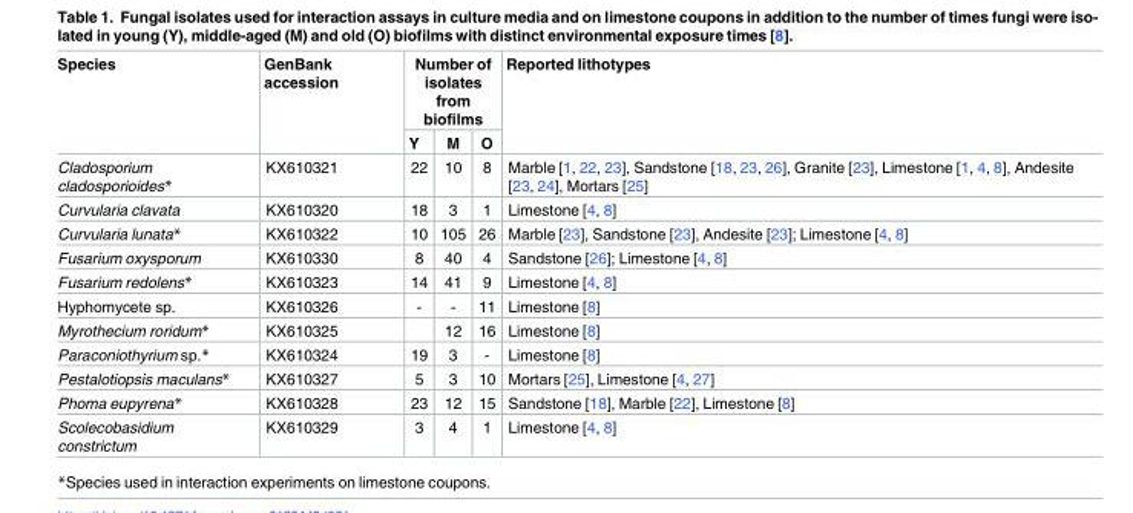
<table><thead><tr><td rowspan="2">Species</td><td rowspan="2">GenBank accession</td><td colspan="3">Number of isolates from biofilms</td><td rowspan="2">Reported lithotypes</td></tr><tr><td>Y</td><td>M</td><td>O</td></tr></thead><tbody><tr><td>Cladosporium cladosporioides*</td><td>KX610321</td><td>22</td><td>10</td><td>8</td><td>Marble [1, 22, 23], Sandstone [18, 23, 26], Granite [23], Limestone [1, 4, 8], Andesite [23, 24], Mortars [25]</td></tr><tr><td>Curvularia clavata</td><td>KX610320</td><td>18</td><td>3</td><td>1</td><td>Limestone [4, 8]</td></tr><tr><td>Curvularia lunata*</td><td>KX610322</td><td>10</td><td>105</td><td>26</td><td>Marble [23], Sandstone [23], Andesite [23]; Limestone [4, 8]</td></tr><tr><td>Fusarium oxysporum</td><td>KX610330</td><td>8</td><td>40</td><td>4</td><td>Sandstone [26]; Limestone [4, 8]</td></tr><tr><td>Fusarium redolens*</td><td>KX610323</td><td>14</td><td>41</td><td>9</td><td>Limestone [4, 8]</td></tr><tr><td>Hyphomycete sp.</td><td>KX610326</td><td>-</td><td>-</td><td>11</td><td>Limestone [8]</td></tr><tr><td>Myrothecium roridum*</td><td>KX610325</td><td></td><td>12</td><td>16</td><td>Limestone [8]</td></tr><tr><td>Paraconiothyrium sp.*</td><td>KX610324</td><td>19</td><td>3</td><td>-</td><td>Limestone [8]</td></tr><tr><td>Pestalotiopsis maculans*</td><td>KX610327</td><td>5</td><td>3</td><td>10</td><td>Mortars [25], Limestone [4, 27]</td></tr><tr><td>Phoma eupyrena*</td><td>KX610328</td><td>23</td><td>12</td><td>15</td><td>Sandstone [18], Marble [22], Limestone [8]</td></tr><tr><td>Scolecobasidium constrictum</td><td>KX610329</td><td>3</td><td>4</td><td>1</td><td>Limestone [4, 8]</td></tr></tbody></table>